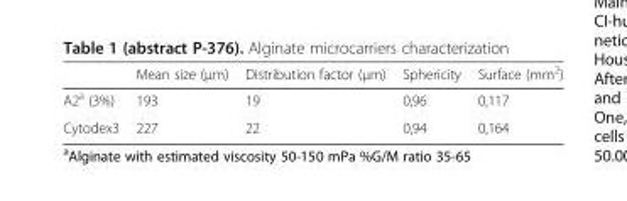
<table><thead><tr><td></td><td>Mean size (μm)</td><td>Distribution factor (μm)</td><td>Sphericity</td><td>Surface (mm<sup>2</sup>)</td></tr></thead><tbody><tr><td>A2<sup>a</sup> (3%)</td><td>193</td><td>19</td><td>0,96</td><td>0,117</td></tr><tr><td>Cytodex3</td><td>227</td><td>22</td><td>0,94</td><td>0,164</td></tr></tbody></table>